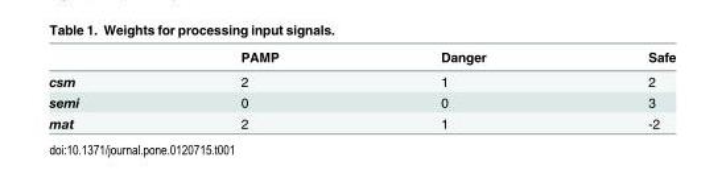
<table><thead><tr><td></td><td>PAMP</td><td>Danger</td><td>Safe</td></tr></thead><tbody><tr><td>csm</td><td>2</td><td>1</td><td>2</td></tr><tr><td>semi</td><td>0</td><td>0</td><td>3</td></tr><tr><td>mat</td><td>2</td><td>1</td><td>-2</td></tr></tbody></table>